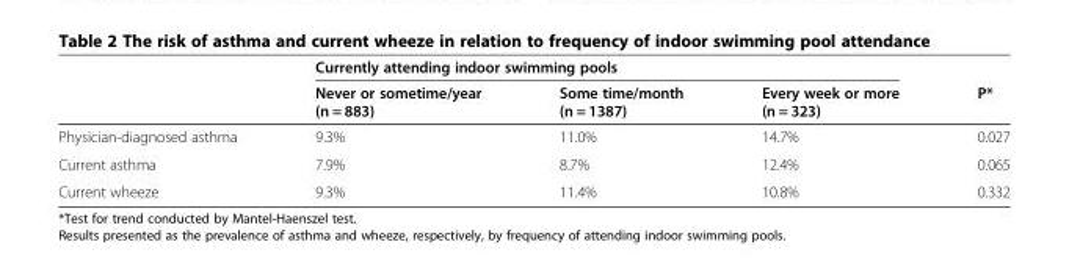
<table><thead><tr><td rowspan="2"></td><td colspan="3">Currently attending indoor swimming pools</td><td rowspan="2">P*</td></tr><tr><td>Never or sometime/year (n = 883)</td><td>Some time/month (n = 1387)</td><td>Every week or more (n = 323)</td></tr></thead><tbody><tr><td>Physician-diagnosed asthma</td><td>9.3%</td><td>11.0%</td><td>14.7%</td><td>0.027</td></tr><tr><td>Current asthma</td><td>7.9%</td><td>8.7%</td><td>12.4%</td><td>0.065</td></tr><tr><td>Current wheeze</td><td>9.3%</td><td>11.4%</td><td>10.8%</td><td>0.332</td></tr></tbody></table>